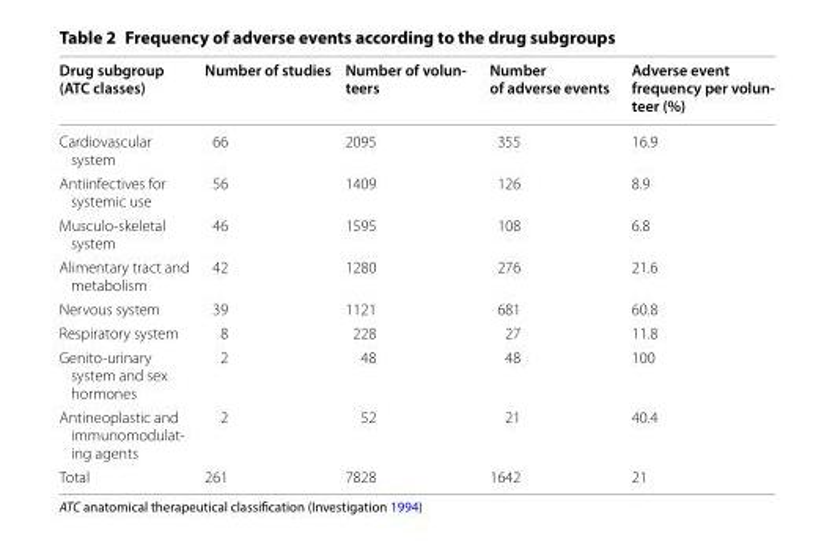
<table><thead><tr><td>Drug subgroup (ATC classes)</td><td>Number of studies</td><td>Number of volun- teers</td><td>Number of adverse events</td><td>Adverse event frequency per volun- teer (%)</td></tr></thead><tbody><tr><td>Cardiovascular system</td><td>66</td><td>2095</td><td>355</td><td>16.9</td></tr><tr><td>Antiinfectives for systemic use</td><td>56</td><td>1409</td><td>126</td><td>8.9</td></tr><tr><td>Musculo-skeletal system</td><td>46</td><td>1595</td><td>108</td><td>6.8</td></tr><tr><td>Alimentary tract and metabolism</td><td>42</td><td>1280</td><td>276</td><td>21.6</td></tr><tr><td>Nervous system</td><td>39</td><td>1121</td><td>681</td><td>60.8</td></tr><tr><td>Respiratory system</td><td>8</td><td>228</td><td>27</td><td>11.8</td></tr><tr><td>Genito-urinary system and sex hormones</td><td>2</td><td>48</td><td>48</td><td>100</td></tr><tr><td>Antineoplastic and immunomodulat- ing agents</td><td>2</td><td>52</td><td>21</td><td>40.4</td></tr><tr><td>Total</td><td>261</td><td>7828</td><td>1642</td><td>21</td></tr></tbody></table>